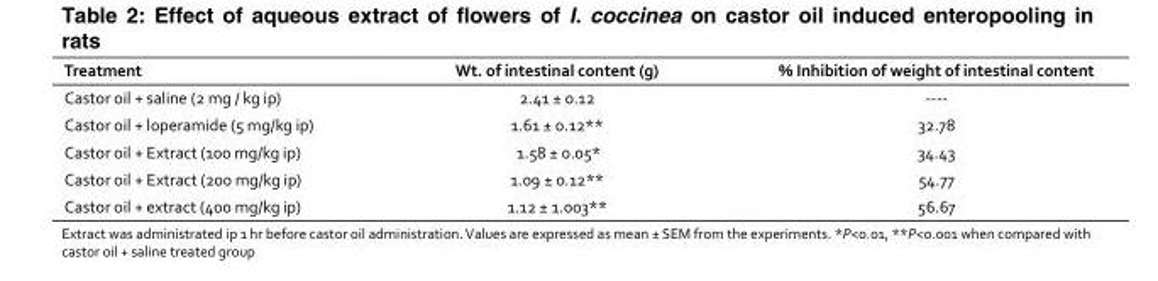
<table><thead><tr><td>Treatment</td><td>Wt. of intestinal content (g)</td><td>% Inhibition of weight of intestinal content</td></tr></thead><tbody><tr><td>Castor oil + saline (2 mg / kg ip)</td><td>2.41 ± 0.12</td><td>----</td></tr><tr><td>Castor oil + loperamide (5 mg/kg ip)</td><td>1.61 ± 0.12**</td><td>32.78</td></tr><tr><td>Castor oil + Extract (100 mg/kg ip)</td><td>1.58 ± 0.05*</td><td>34.43</td></tr><tr><td>Castor oil + Extract (200 mg/kg ip)</td><td>1.09 ± 0.12**</td><td>54.77</td></tr><tr><td>Castor oil + extract (400 mg/kg ip)</td><td>1.12 ± 1.003**</td><td>56.67</td></tr></tbody></table>